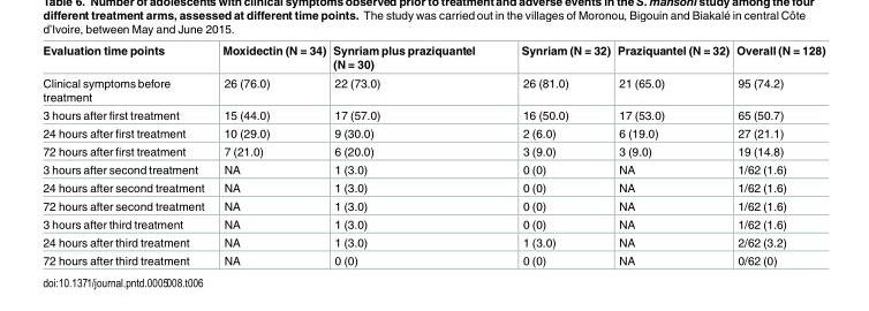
<table><thead><tr><td>Evaluation time points</td><td>Moxidectin (N = 34)</td><td>Synriam plus praziquantel (N = 30)</td><td>Synriam (N = 32)</td><td>Praziquantel (N = 32)</td><td>Overall (N = 128)</td></tr></thead><tbody><tr><td>Clinical symptoms before treatment</td><td>26 (76.0)</td><td>22 (73.0)</td><td>26 (81.0)</td><td>21 (65.0)</td><td>95 (74.2)</td></tr><tr><td>3 hours after first treatment</td><td>15 (44.0)</td><td>17 (57.0)</td><td>16 (50.0)</td><td>17 (53.0)</td><td>65 (50.7)</td></tr><tr><td>24 hours after first treatment</td><td>10 (29.0)</td><td>9 (30.0)</td><td>2 (6.0)</td><td>6 (19.0)</td><td>27 (21.1)</td></tr><tr><td>72 hours after first treatment</td><td>7 (21.0)</td><td>6 (20.0)</td><td>3 (9.0)</td><td>3 (9.0)</td><td>19 (14.8)</td></tr><tr><td>3 hours after second treatment</td><td>NA</td><td>1 (3.0)</td><td>0 (0)</td><td>NA</td><td>1/62 (1.6)</td></tr><tr><td>24 hours after second treatment</td><td>NA</td><td>1 (3.0)</td><td>0 (0)</td><td>NA</td><td>1/62 (1.6)</td></tr><tr><td>72 hours after second treatment</td><td>NA</td><td>1 (3.0)</td><td>0 (0)</td><td>NA</td><td>1/62 (1.6)</td></tr><tr><td>3 hours after third treatment</td><td>NA</td><td>1 (3.0)</td><td>0 (0)</td><td>NA</td><td>1/62 (1.6)</td></tr><tr><td>24 hours after third treatment</td><td>NA</td><td>1 (3.0)</td><td>1 (3.0)</td><td>NA</td><td>2/62 (3.2)</td></tr><tr><td>72 hours after third treatment</td><td>NA</td><td>0 (0)</td><td>0 (0)</td><td>NA</td><td>0/62 (0)</td></tr></tbody></table>